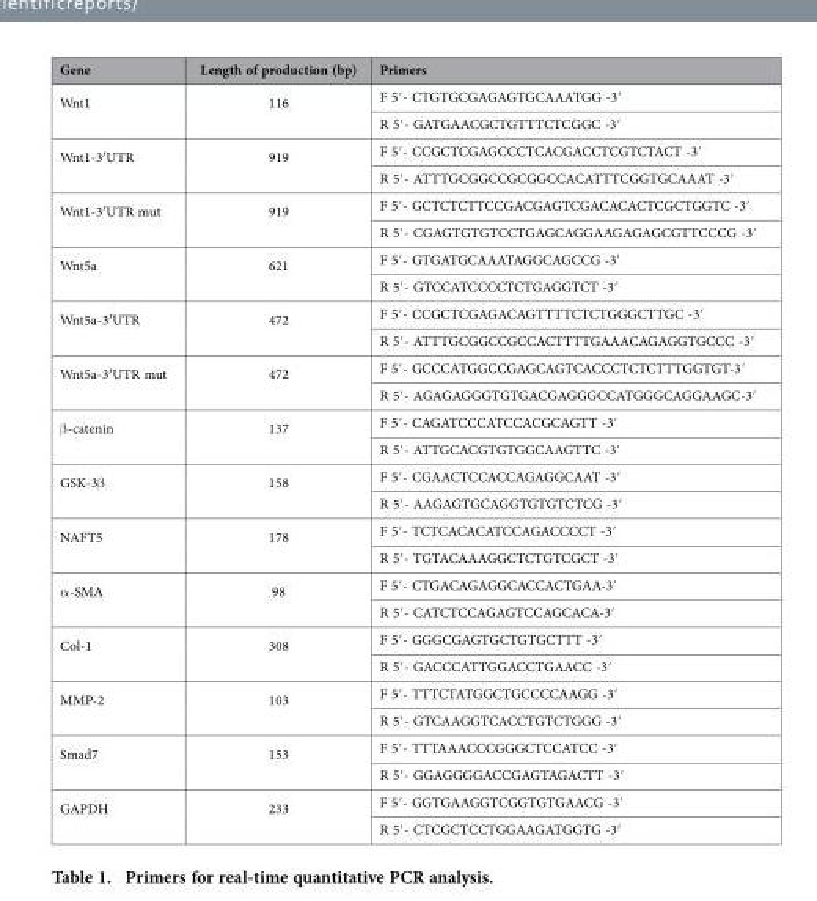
<table><thead><tr><td>Gene</td><td>Length of production (bp)</td><td>Primers</td></tr></thead><tbody><tr><td rowspan="2">Wnt1</td><td rowspan="2">116</td><td>F 5′ - CTGTGCGAGAGTGCAAATGG -3′</td></tr><tr><td>R 5′ - GATGAACGCTGTTTCTCGGC -3′</td></tr><tr><td rowspan="2">Wnt1-3′UTR</td><td rowspan="2">919</td><td>F 5′ - CCGCTCGAGCCCTCACGACCTCGTCTACT -3′</td></tr><tr><td>R 5′ - ATTTGCGGCCGCGGCCACATTTCGGTGCAAAT -3′</td></tr><tr><td rowspan="2">Wnt1-3′UTR mut</td><td rowspan="2">919</td><td>F 5′ - GCTCTCTTCCGACGAGTCGACACACTCGCTGGTC -3′</td></tr><tr><td>R 5′ - CGAGTGTGTCCTGAGCAGGAAGAGAGCGTTCCCG -3′</td></tr><tr><td rowspan="2">Wnt5a</td><td rowspan="2">621</td><td>F 5′ - GTGATGCAAATAGGCAGCCG -3′</td></tr><tr><td>R 5′ - GTCCATCCCCTCTGAGGTCT -3′</td></tr><tr><td rowspan="2">Wnt5a-3′UTR</td><td rowspan="2">472</td><td>F 5′ - CCGCTCGAGACAGTTTTCTCTGGGCTTGC -3′</td></tr><tr><td>R 5′ - ATTTGCGGCCGCCACTTTTGAAACAGAGGTGCCC -3′</td></tr><tr><td rowspan="2">Wnt5a-3′UTR mut</td><td rowspan="2">472</td><td>F 5′ - GCCCATGGCCGAGCAGTCACCCTCTCTTTGGTGT-3′</td></tr><tr><td>R 5′ - AGAGAGGGTGTGACGAGGGCCATGGGCAGGAAGC-3′</td></tr><tr><td rowspan="2">β -catenin</td><td rowspan="2">137</td><td>F 5′ - CAGATCCCATCCACGCAGTT -3′</td></tr><tr><td>R 5′ - ATTGCACGTGTGGCAAGTTC -3′</td></tr><tr><td rowspan="2">GSK-3β</td><td rowspan="2">158</td><td>F 5′ - CGAACTCCACCAGAGGCAAT -3′</td></tr><tr><td>R 5′ - AAGAGTGCAGGTGTGTCTCG -3′</td></tr><tr><td rowspan="2">NAFT5</td><td rowspan="2">178</td><td>F 5′ - TCTCACACATCCAGACCCCT -3′</td></tr><tr><td>R 5′ - TGTACAAAGGCTCTGTCGCT -3′</td></tr><tr><td rowspan="2">α -SMA</td><td rowspan="2">98</td><td>F 5′ - CTGACAGAGGCACCACTGAA-3′</td></tr><tr><td>R 5′ - CATCTCCAGAGTCCAGCACA-3′</td></tr><tr><td rowspan="2">Col-1</td><td rowspan="2">308</td><td>F 5′ - GGGCGAGTGCTGTGCTTT -3′</td></tr><tr><td>R 5′ - GACCCATTGGACCTGAACC -3′</td></tr><tr><td rowspan="2">MMP-2</td><td rowspan="2">103</td><td>F 5′ - TTTCTATGGCTGCCCCAAGG -3′</td></tr><tr><td>R 5′ - GTCAAGGTCACCTGTCTGGG -3′</td></tr><tr><td rowspan="2">Smad7</td><td rowspan="2">153</td><td>F 5′ - TTTAAACCCGGGCTCCATCC -3′</td></tr><tr><td>R 5′ - GGAGGGGACCGAGTAGACTT -3′</td></tr><tr><td rowspan="2">GAPDH</td><td rowspan="2">233</td><td>F 5′ - GGTGAAGGTCGGTGTGAACG -3′</td></tr><tr><td>R 5′ - CTCGCTCCTGGAAGATGGTG -3′</td></tr></tbody></table>